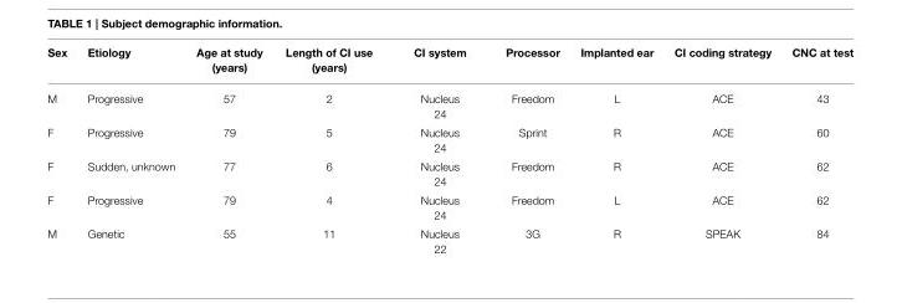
<table><thead><tr><td>Sex</td><td>Etiology</td><td>Age at study (years)</td><td>Length of CI use (years)</td><td>CI system</td><td>Processor</td><td>Implanted ear</td><td>CI coding strategy</td><td>CNC at test</td></tr></thead><tbody><tr><td>M</td><td>Progressive</td><td>57</td><td>2</td><td>Nucleus 24</td><td>Freedom</td><td>L</td><td>ACE</td><td>43</td></tr><tr><td>F</td><td>Progressive</td><td>79</td><td>5</td><td>Nucleus 24</td><td>Sprint</td><td>R</td><td>ACE</td><td>60</td></tr><tr><td>F</td><td>Sudden, unknown</td><td>77</td><td>6</td><td>Nucleus 24</td><td>Freedom</td><td>R</td><td>ACE</td><td>62</td></tr><tr><td>F</td><td>Progressive</td><td>79</td><td>4</td><td>Nucleus 24</td><td>Freedom</td><td>L</td><td>ACE</td><td>62</td></tr><tr><td>M</td><td>Genetic</td><td>55</td><td>11</td><td>Nucleus 22</td><td>3G</td><td>R</td><td>SPEAK</td><td>84</td></tr></tbody></table>